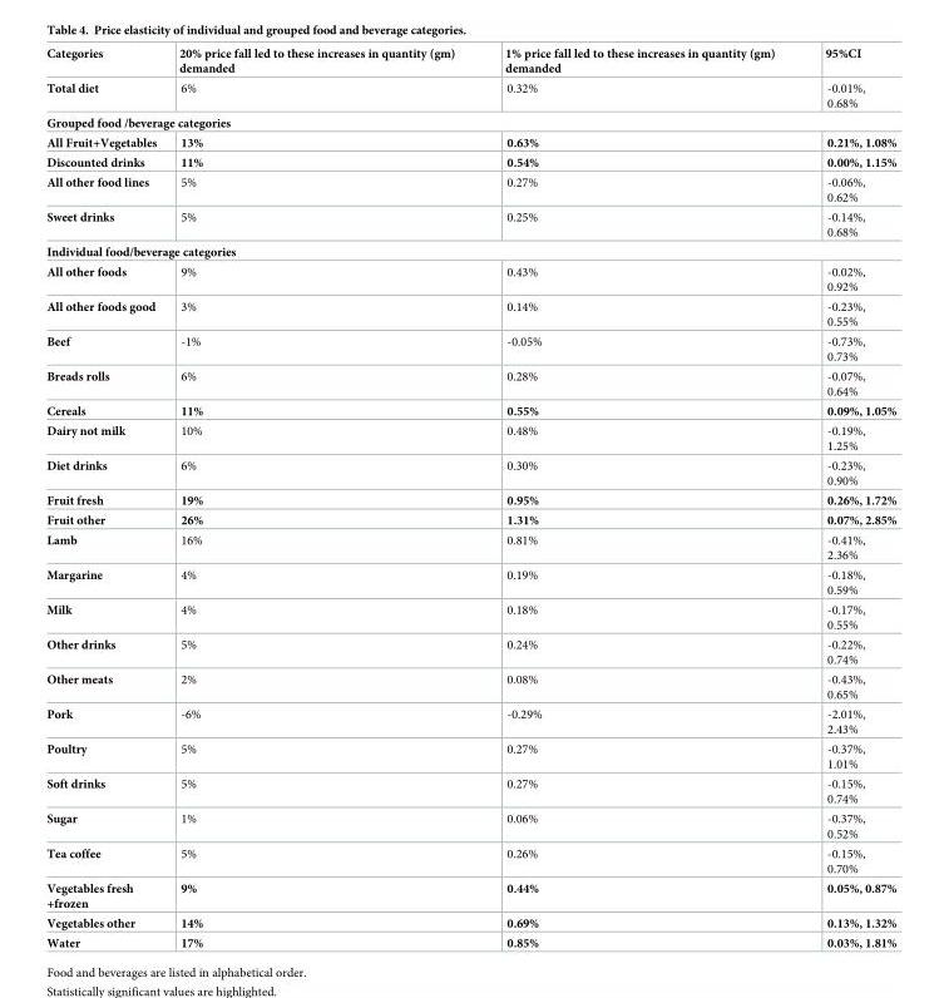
<table><thead><tr><td>Categories</td><td>20% price fall led to these increases in quantity (gm) demanded</td><td>1% price fall led to these increases in quantity (gm) demanded</td><td>95%CI</td></tr></thead><tbody><tr><td>Total diet</td><td>6%</td><td>0.32%</td><td>-0.01%, 0.68%</td></tr><tr><td colspan="4">Grouped food /beverage categories</td></tr><tr><td>All Fruit+Vegetables</td><td>13%</td><td>0.63%</td><td>0.21%, 1.08%</td></tr><tr><td>Discounted drinks</td><td>11%</td><td>0.54%</td><td>0.00%, 1.15%</td></tr><tr><td>All other food lines</td><td>5%</td><td>0.27%</td><td>-0.06%, 0.62%</td></tr><tr><td>Sweet drinks</td><td>5%</td><td>0.25%</td><td>-0.14%, 0.68%</td></tr><tr><td colspan="4">Individual food/beverage categories</td></tr><tr><td>All other foods</td><td>9%</td><td>0.43%</td><td>-0.02%, 0.92%</td></tr><tr><td>All other foods good</td><td>3%</td><td>0.14%</td><td>-0.23%, 0.55%</td></tr><tr><td>Beef</td><td>-1%</td><td>-0.05%</td><td>-0.73%, 0.73%</td></tr><tr><td>Breads rolls</td><td>6%</td><td>0.28%</td><td>-0.07%, 0.64%</td></tr><tr><td>Cereals</td><td>11%</td><td>0.55%</td><td>0.09%, 1.05%</td></tr><tr><td>Dairy not milk</td><td>10%</td><td>0.48%</td><td>-0.19%, 1.25%</td></tr><tr><td>Diet drinks</td><td>6%</td><td>0.30%</td><td>-0.23%, 0.90%</td></tr><tr><td>Fruit fresh</td><td>19%</td><td>0.95%</td><td>0.26%, 1.72%</td></tr><tr><td>Fruit other</td><td>26%</td><td>1.31%</td><td>0.07%, 2.85%</td></tr><tr><td>Lamb</td><td>16%</td><td>0.81%</td><td>-0.41%, 2.36%</td></tr><tr><td>Margarine</td><td>4%</td><td>0.19%</td><td>-0.18%, 0.59%</td></tr><tr><td>Milk</td><td>4%</td><td>0.18%</td><td>-0.17%, 0.55%</td></tr><tr><td>Other drinks</td><td>5%</td><td>0.24%</td><td>-0.22%, 0.74%</td></tr><tr><td>Other meats</td><td>2%</td><td>0.08%</td><td>-0.43%, 0.65%</td></tr><tr><td>Pork</td><td>-6%</td><td>-0.29%</td><td>-2.01%, 2.43%</td></tr><tr><td>Poultry</td><td>5%</td><td>0.27%</td><td>-0.37%, 1.01%</td></tr><tr><td>Soft drinks</td><td>5%</td><td>0.27%</td><td>-0.15%, 0.74%</td></tr><tr><td>Sugar</td><td>1%</td><td>0.06%</td><td>-0.37%, 0.52%</td></tr><tr><td>Tea coffee</td><td>5%</td><td>0.26%</td><td>-0.15%, 0.70%</td></tr><tr><td>Vegetables fresh +frozen</td><td>9%</td><td>0.44%</td><td>0.05%, 0.87%</td></tr><tr><td>Vegetables other</td><td>14%</td><td>0.69%</td><td>0.13%, 1.32%</td></tr><tr><td>Water</td><td>17%</td><td>0.85%</td><td>0.03%, 1.81%</td></tr></tbody></table>